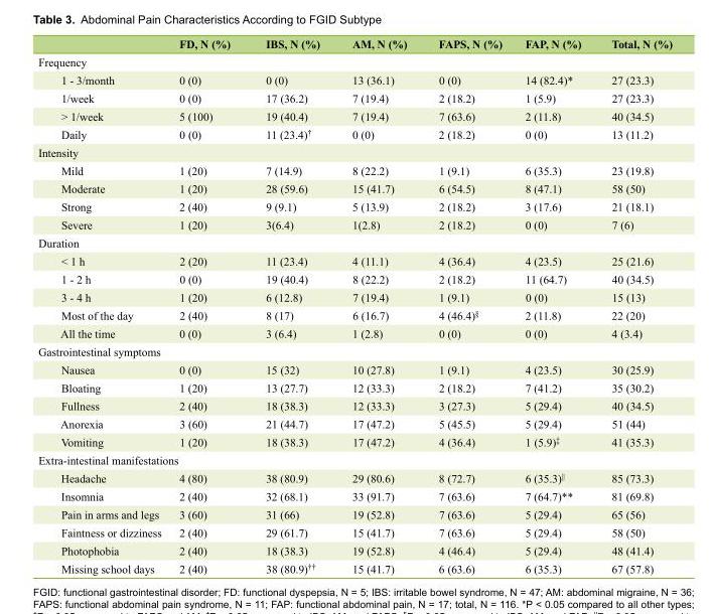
<table><thead><tr><td></td><td>FD, N (%)</td><td>IBS, N (%)</td><td>AM, N (%)</td><td>FAPS, N (%)</td><td>FAP, N (%)</td><td>Total, N (%)</td></tr></thead><tbody><tr><td colspan="7">Frequency</td></tr><tr><td>1 - 3/month</td><td>0 (0)</td><td>0 (0)</td><td>13 (36.1)</td><td>0 (0)</td><td>14 (82.4)*</td><td>27 (23.3)</td></tr><tr><td>1/week</td><td>0 (0)</td><td>17 (36.2)</td><td>7 (19.4)</td><td>2 (18.2)</td><td>1 (5.9)</td><td>27 (23.3)</td></tr><tr><td>&gt; 1/week</td><td>5 (100)</td><td>19 (40.4)</td><td>7 (19.4)</td><td>7 (63.6)</td><td>2 (11.8)</td><td>40 (34.5)</td></tr><tr><td>Daily</td><td>0 (0)</td><td>11 (23.4)<sup>†</sup></td><td>0 (0)</td><td>2 (18.2)</td><td>0 (0)</td><td>13 (11.2)</td></tr><tr><td colspan="7">Intensity</td></tr><tr><td>Mild</td><td>1 (20)</td><td>7 (14.9)</td><td>8 (22.2)</td><td>1 (9.1)</td><td>6 (35.3)</td><td>23 (19.8)</td></tr><tr><td>Moderate</td><td>1 (20)</td><td>28 (59.6)</td><td>15 (41.7)</td><td>6 (54.5)</td><td>8 (47.1)</td><td>58 (50)</td></tr><tr><td>Strong</td><td>2 (40)</td><td>9 (9.1)</td><td>5 (13.9)</td><td>2 (18.2)</td><td>3 (17.6)</td><td>21 (18.1)</td></tr><tr><td>Severe</td><td>1 (20)</td><td>3(6.4)</td><td>1(2.8)</td><td>2 (18.2)</td><td>0 (0)</td><td>7 (6)</td></tr><tr><td colspan="7">Duration</td></tr><tr><td>&lt; 1 h</td><td>2 (20)</td><td>11 (23.4)</td><td>4 (11.1)</td><td>4 (36.4)</td><td>4 (23.5)</td><td>25 (21.6)</td></tr><tr><td>1 - 2 h</td><td>0 (0)</td><td>19 (40.4)</td><td>8 (22.2)</td><td>2 (18.2)</td><td>11 (64.7)</td><td>40 (34.5)</td></tr><tr><td>3 - 4 h</td><td>1 (20)</td><td>6 (12.8)</td><td>7 (19.4)</td><td>1 (9.1)</td><td>0 (0)</td><td>15 (13)</td></tr><tr><td>Most of the day</td><td>2 (40)</td><td>8 (17)</td><td>6 (16.7)</td><td>4 (46.4)<sup>§</sup></td><td>2 (11.8)</td><td>22 (20)</td></tr><tr><td>All the time</td><td>0 (0)</td><td>3 (6.4)</td><td>1 (2.8)</td><td>0 (0)</td><td>0 (0)</td><td>4 (3.4)</td></tr><tr><td colspan="7">Gastrointestinal symptoms</td></tr><tr><td>Nausea</td><td>0 (0)</td><td>15 (32)</td><td>10 (27.8)</td><td>1 (9.1)</td><td>4 (23.5)</td><td>30 (25.9)</td></tr><tr><td>Bloating</td><td>1 (20)</td><td>13 (27.7)</td><td>12 (33.3)</td><td>2 (18.2)</td><td>7 (41.2)</td><td>35 (30.2)</td></tr><tr><td>Fullness</td><td>2 (40)</td><td>18 (38.3)</td><td>12 (33.3)</td><td>3 (27.3)</td><td>5 (29.4)</td><td>40 (34.5)</td></tr><tr><td>Anorexia</td><td>3 (60)</td><td>21 (44.7)</td><td>17 (47.2)</td><td>5 (45.5)</td><td>5 (29.4)</td><td>51 (44)</td></tr><tr><td>Vomiting</td><td>1 (20)</td><td>18 (38.3)</td><td>17 (47.2)</td><td>4 (36.4)</td><td>1 (5.9)<sup>‡</sup></td><td>41 (35.3)</td></tr><tr><td colspan="7">Extra-intestinal manifestations</td></tr><tr><td>Headache</td><td>4 (80)</td><td>38 (80.9)</td><td>29 (80.6)</td><td>8 (72.7)</td><td>6 (35.3)<sup>||</sup></td><td>85 (73.3)</td></tr><tr><td>Insomnia</td><td>2 (40)</td><td>32 (68.1)</td><td>33 (91.7)</td><td>7 (63.6)</td><td>7 (64.7)**</td><td>81 (69.8)</td></tr><tr><td>Pain in arms and legs</td><td>3 (60)</td><td>31 (66)</td><td>19 (52.8)</td><td>7 (63.6)</td><td>5 (29.4)</td><td>65 (56)</td></tr><tr><td>Faintness or dizziness</td><td>2 (40)</td><td>29 (61.7)</td><td>15 (41.7)</td><td>7 (63.6)</td><td>5 (29.4)</td><td>58 (50)</td></tr><tr><td>Photophobia</td><td>2 (40)</td><td>18 (38.3)</td><td>19 (52.8)</td><td>4 (46.4)</td><td>5 (29.4)</td><td>48 (41.4)</td></tr><tr><td>Missing school days</td><td>2 (40)</td><td>38 (80.9)<sup>††</sup></td><td>15 (41.7)</td><td>6 (63.6)</td><td>6 (35.3)</td><td>67 (57.8)</td></tr></tbody></table>